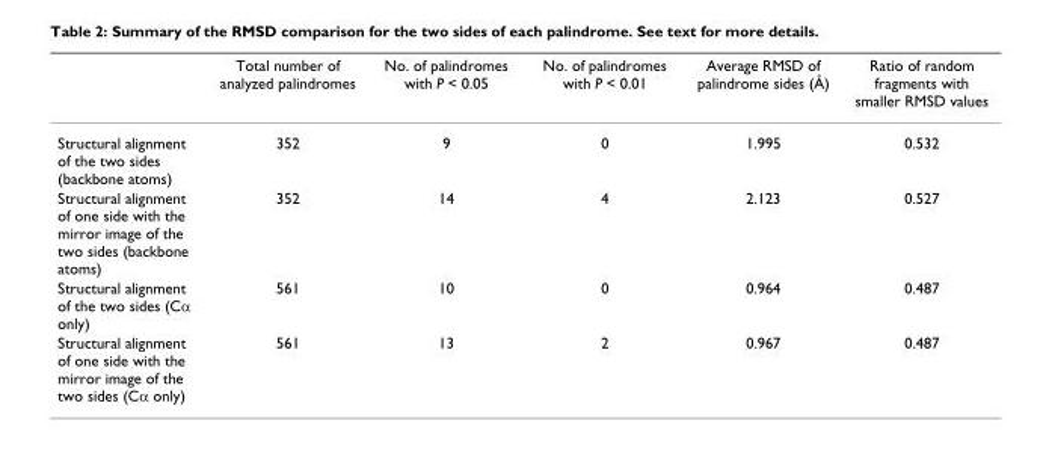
<table><thead><tr><td></td><td>Total number of analyzed palindromes</td><td>No. of palindromes with P &lt; 0.05</td><td>No. of palindromes with P &lt; 0.01</td><td>Average RMSD of palindrome sides (Å)</td><td>Ratio of random fragments with smaller RMSD values</td></tr></thead><tbody><tr><td>Structural alignment of the two sides (backbone atoms)</td><td>352</td><td>9</td><td>0</td><td>1.995</td><td>0.532</td></tr><tr><td>Structural alignment of one side with the mirror image of the two sides (backbone atoms)</td><td>352</td><td>14</td><td>4</td><td>2.123</td><td>0.527</td></tr><tr><td>Structural alignment of the two sides (Cα only)</td><td>561</td><td>10</td><td>0</td><td>0.964</td><td>0.487</td></tr><tr><td>Structural alignment of one side with the mirror image of the two sides (Cα only)</td><td>561</td><td>13</td><td>2</td><td>0.967</td><td>0.487</td></tr></tbody></table>